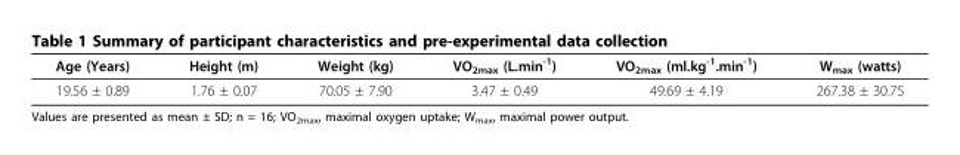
<table><thead><tr><td>Age (Years)</td><td>Height (m)</td><td>Weight (kg)</td><td>VO<sub>2max</sub> (L.min<sup>-1</sup>)</td><td>VO<sub>2max</sub> (ml.kg<sup>-1</sup>.min<sup>-1</sup>)</td><td>W<sub>max</sub> (watts)</td></tr></thead><tbody><tr><td>19.56 ± 0.89</td><td>1.76 ± 0.07</td><td>70.05 ± 7.90</td><td>3.47 ± 0.49</td><td>49.69 ± 4.19</td><td>267.38 ± 30.75</td></tr></tbody></table>